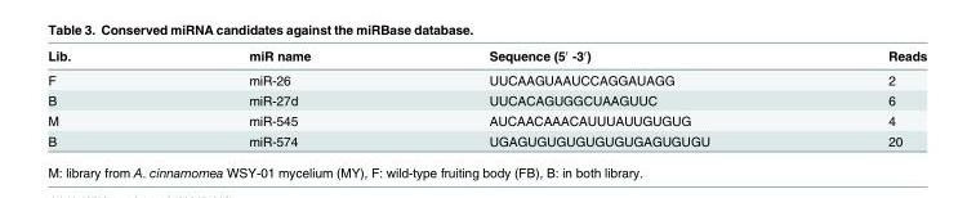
<table><thead><tr><td>Lib.</td><td>miR name</td><td>Sequence (5′ -3′)</td><td>Reads</td></tr></thead><tbody><tr><td>F</td><td>miR-26</td><td>UUCAAGUAAUCCAGGAUAGG</td><td>2</td></tr><tr><td>B</td><td>miR-27d</td><td>UUCACAGUGGCUAAGUUC</td><td>6</td></tr><tr><td>M</td><td>miR-545</td><td>AUCAACAAACAUUUAUUGUGUG</td><td>4</td></tr><tr><td>B</td><td>miR-574</td><td>UGAGUGUGUGUGUGUGAGUGUGU</td><td>20</td></tr></tbody></table>